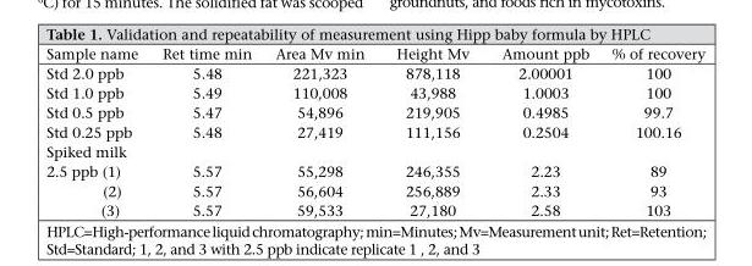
<table><thead><tr><td>Sample name</td><td>Ret time min</td><td>Area Mv min</td><td>Height Mv</td><td>Amount ppb</td><td>% of recovery</td></tr></thead><tbody><tr><td>Std 2.0 ppb</td><td>5.48</td><td>221,323</td><td>878,118</td><td>2.00001</td><td>100</td></tr><tr><td>Std 1.0 ppb</td><td>5.49</td><td>110,008</td><td>43,988</td><td>1.0003</td><td>100</td></tr><tr><td>Std 0.5 ppb</td><td>5.47</td><td>54,896</td><td>219,905</td><td>0.4985</td><td>99.7</td></tr><tr><td>Std 0.25 ppb</td><td>5.48</td><td>27,419</td><td>111,156</td><td>0.2504</td><td>100.16</td></tr><tr><td colspan="6">Spiked milk</td></tr><tr><td>2.5 ppb (1)</td><td>5.57</td><td>55,298</td><td>246,355</td><td>2.23</td><td>89</td></tr><tr><td>(2)</td><td>5.57</td><td>56,604</td><td>256,889</td><td>2.33</td><td>93</td></tr><tr><td>(3)</td><td>5.57</td><td>59,533</td><td>27,180</td><td>2.58</td><td>103</td></tr></tbody></table>